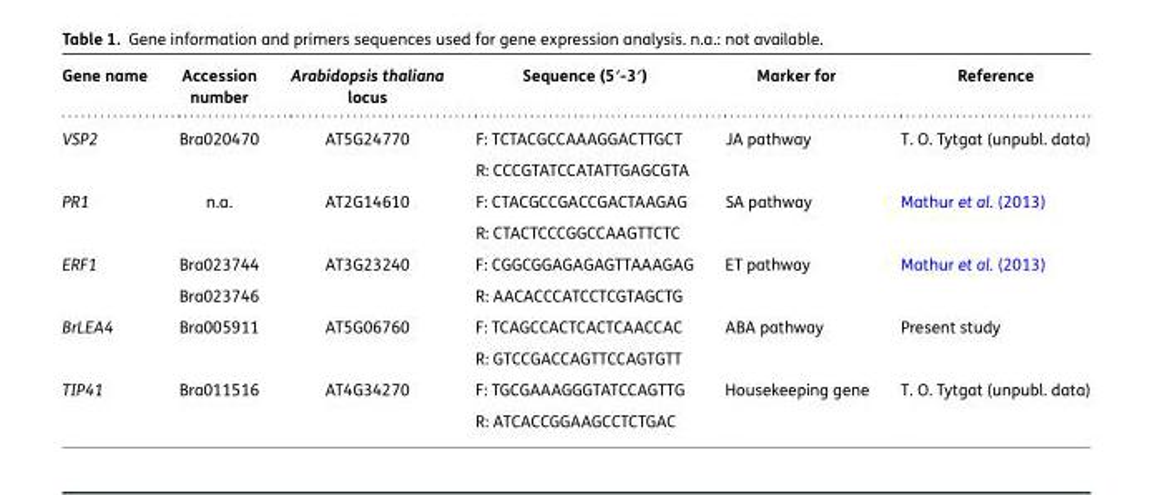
<table><thead><tr><td>Gene name</td><td>Accession number</td><td>Arabidopsis thaliana locus</td><td>Sequence (5′-3′)</td><td>Marker for</td><td>Reference</td></tr></thead><tbody><tr><td rowspan="2">VSP2</td><td rowspan="2">Bra020470</td><td rowspan="2">AT5G24770</td><td>F: TCTACGCCAAAGGACTTGCT</td><td rowspan="2">JA pathway</td><td rowspan="2">T. O. Tytgat (unpubl. data)</td></tr><tr><td>R: CCCGTATCCATATTGAGCGTA</td></tr><tr><td rowspan="2">PR1</td><td rowspan="2">n.a.</td><td rowspan="2">AT2G14610</td><td>F: CTACGCCGACCGACTAAGAG</td><td rowspan="2">SA pathway</td><td rowspan="2">Mathur et al. (2013)</td></tr><tr><td>R: CTACTCCCGGCCAAGTTCTC</td></tr><tr><td rowspan="2">ERF1</td><td rowspan="2">Bra023744 Bra023746</td><td rowspan="2">AT3G23240</td><td>F: CGGCGGAGAGAGTTAAAGAG</td><td rowspan="2">ET pathway</td><td rowspan="2">Mathur et al. (2013)</td></tr><tr><td>R: AACACCCATCCTCGTAGCTG</td></tr><tr><td rowspan="2">BrLEA4</td><td rowspan="2">Bra005911</td><td rowspan="2">AT5G06760</td><td>F: TCAGCCACTCACTCAACCAC</td><td rowspan="2">ABA pathway</td><td rowspan="2">Present study</td></tr><tr><td>R: GTCCGACCAGTTCCAGTGTT</td></tr><tr><td rowspan="2">TIP41</td><td rowspan="2">Bra011516</td><td rowspan="2">AT4G34270</td><td>F: TGCGAAAGGGTATCCAGTTG</td><td rowspan="2">Housekeeping gene</td><td rowspan="2">T. O. Tytgat (unpubl. data)</td></tr><tr><td>R: ATCACCGGAAGCCTCTGAC</td></tr></tbody></table>